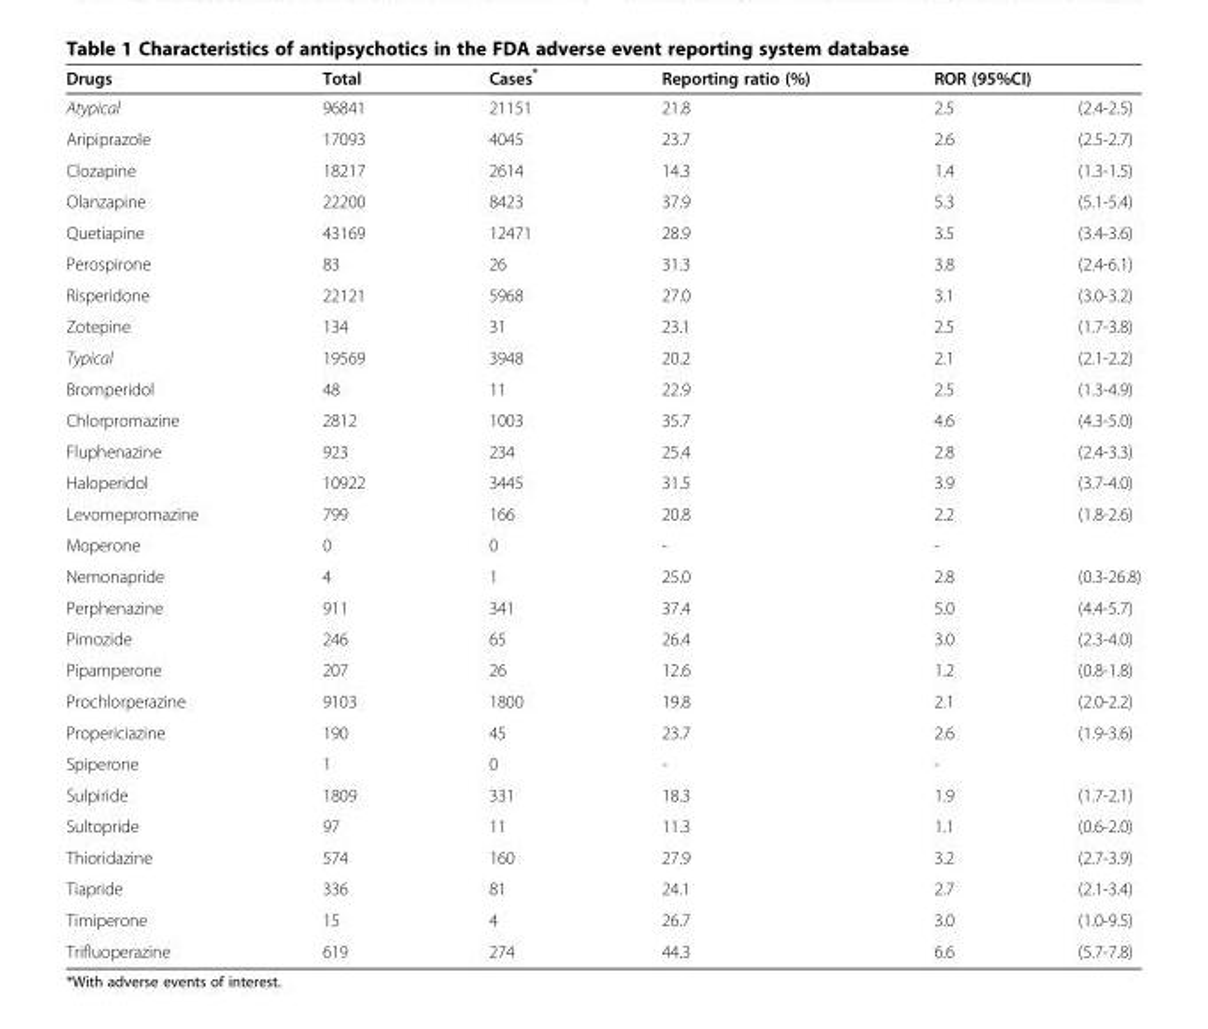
<table><thead><tr><td rowspan="2">Drugs Atypical</td><td rowspan="2">Total 96841</td><td rowspan="2">Cases* 21151</td><td rowspan="2">Reporting ratio (%) 21.8</td><td colspan="2">ROR (95%CI)</td></tr><tr><td>2.5</td><td>(2.4-2.5)</td></tr></thead><tbody><tr><td>Aripiprazole</td><td>17093</td><td>4045</td><td>23.7</td><td>2.6</td><td>(2.5-2.7)</td></tr><tr><td>Clozapine</td><td>18217</td><td>2614</td><td>14.3</td><td>1.4</td><td>(1.3-1.5)</td></tr><tr><td>Olanzapine</td><td>22200</td><td>8423</td><td>37.9</td><td>5.3</td><td>(5.1-5.4)</td></tr><tr><td>Quetiapine</td><td>43169</td><td>12471</td><td>28.9</td><td>3.5</td><td>(3.4-3.6)</td></tr><tr><td>Perospirone</td><td>83</td><td>26</td><td>31.3</td><td>3.8</td><td>(2.4-6.1)</td></tr><tr><td>Risperidone</td><td>22121</td><td>5968</td><td>27.0</td><td>3.1</td><td>(3.0-3.2)</td></tr><tr><td>Zotepine</td><td>134</td><td>31</td><td>23.1</td><td>2.5</td><td>(1.7-3.8)</td></tr><tr><td>Typical</td><td>19569</td><td>3948</td><td>20.2</td><td>2.1</td><td>(2.1-2.2)</td></tr><tr><td>Bromperidol</td><td>48</td><td>11</td><td>22.9</td><td>2.5</td><td>(1.3-4.9)</td></tr><tr><td>Chlorpromazine</td><td>2812</td><td>1003</td><td>35.7</td><td>4.6</td><td>(4.3-5.0)</td></tr><tr><td>Fluphenazine</td><td>923</td><td>234</td><td>25.4</td><td>2.8</td><td>(2.4-3.3)</td></tr><tr><td>Haloperidol</td><td>10922</td><td>3445</td><td>31.5</td><td>3.9</td><td>(3.7-4.0)</td></tr><tr><td>Levomepromazine</td><td>799</td><td>166</td><td>20.8</td><td>2.2</td><td>(1.8-2.6)</td></tr><tr><td>Moperone</td><td>0</td><td>0</td><td>-</td><td>-</td><td></td></tr><tr><td>Nemonapride</td><td>4</td><td>1</td><td>25.0</td><td>2.8</td><td>(0.3-26.8)</td></tr><tr><td>Perphenazine</td><td>911</td><td>341</td><td>37.4</td><td>5.0</td><td>(4.4-5.7)</td></tr><tr><td>Pimozide</td><td>246</td><td>65</td><td>26.4</td><td>3.0</td><td>(2.3-4.0)</td></tr><tr><td>Pipamperone</td><td>207</td><td>26</td><td>12.6</td><td>1.2</td><td>(0.8-1.8)</td></tr><tr><td>Prochlorperazine</td><td>9103</td><td>1800</td><td>19.8</td><td>2.1</td><td>(2.0-2.2)</td></tr><tr><td>Propericiazine</td><td>190</td><td>45</td><td>23.7</td><td>2.6</td><td>(1.9-3.6)</td></tr><tr><td>Spiperone</td><td>1</td><td>0</td><td>-</td><td>-</td><td></td></tr><tr><td>Sulpiride</td><td>1809</td><td>331</td><td>18.3</td><td>1.9</td><td>(1.7-2.1)</td></tr><tr><td>Sultopride</td><td>97</td><td>11</td><td>11.3</td><td>1.1</td><td>(0.6-2.0)</td></tr><tr><td>Thioridazine</td><td>574</td><td>160</td><td>27.9</td><td>3.2</td><td>(2.7-3.9)</td></tr><tr><td>Tiapride</td><td>336</td><td>81</td><td>24.1</td><td>2.7</td><td>(2.1-3.4)</td></tr><tr><td>Timiperone</td><td>15</td><td>4</td><td>26.7</td><td>3.0</td><td>(1.0-9.5)</td></tr><tr><td>Trifluoperazine</td><td>619</td><td>274</td><td>44.3</td><td>6.6</td><td>(5.7-7.8)</td></tr></tbody></table>